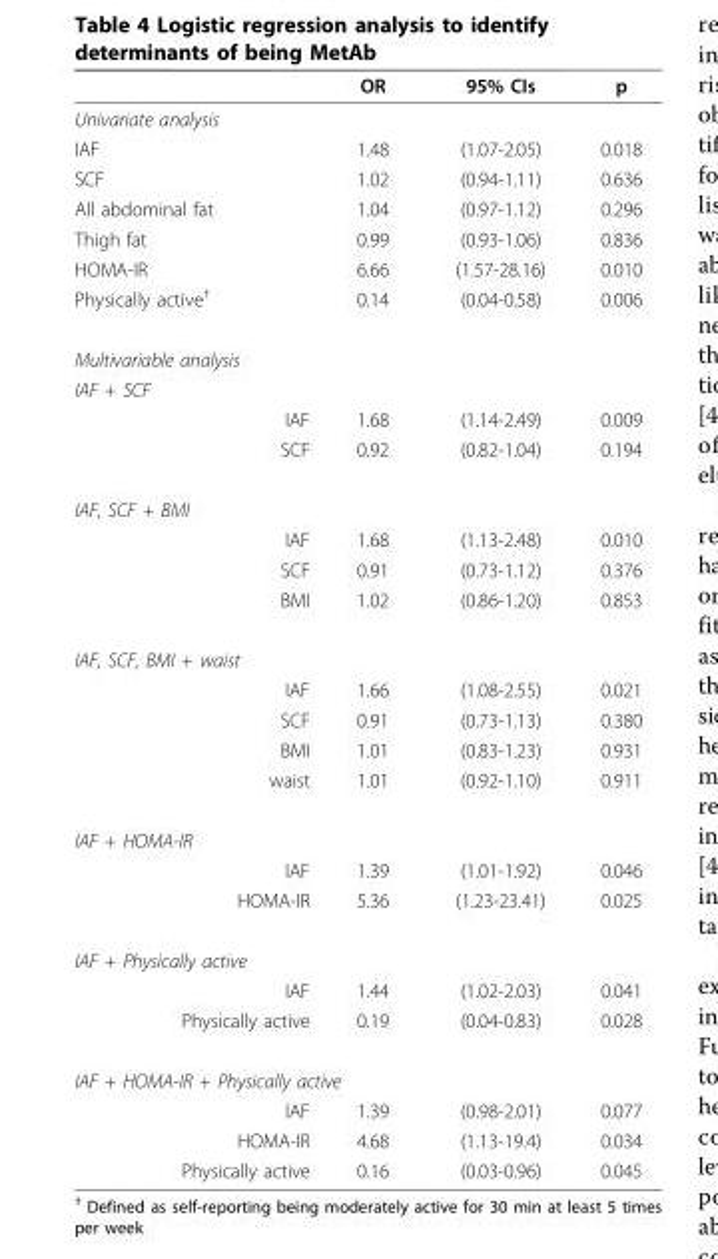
<table><thead><tr><td></td><td>OR</td><td>95% CIs</td><td>p</td></tr></thead><tbody><tr><td colspan="4">Univariate analysis</td></tr><tr><td>IAF</td><td>1.48</td><td>(1.07-2.05)</td><td>0.018</td></tr><tr><td>SCF</td><td>1.02</td><td>(0.94-1.11)</td><td>0.636</td></tr><tr><td>All abdominal fat</td><td>1.04</td><td>(0.97-1.12)</td><td>0.296</td></tr><tr><td>Thigh fat</td><td>0.99</td><td>(0.93-1.06)</td><td>0.836</td></tr><tr><td>HOMA-IR</td><td>6.66</td><td>(1.57-28.16)</td><td>0.010</td></tr><tr><td>Physically active<sup>†</sup></td><td>0.14</td><td>(0.04-0.58)</td><td>0.006</td></tr><tr><td colspan="4">Multivariable analysis</td></tr><tr><td colspan="4">IAF + SCF</td></tr><tr><td>IAF</td><td>1.68</td><td>(1.14-2.49)</td><td>0.009</td></tr><tr><td>SCF</td><td>0.92</td><td>(0.82-1.04)</td><td>0.194</td></tr><tr><td colspan="4">IAF, SCF + BMI</td></tr><tr><td>IAF</td><td>1.68</td><td>(1.13-2.48)</td><td>0.010</td></tr><tr><td>SCF</td><td>0.91</td><td>(0.73-1.12)</td><td>0.376</td></tr><tr><td>BMI</td><td>1.02</td><td>(0.86-1.20)</td><td>0.853</td></tr><tr><td colspan="4">IAF, SCF, BMI + waist</td></tr><tr><td>IAF</td><td>1.66</td><td>(1.08-2.55)</td><td>0.021</td></tr><tr><td>SCF</td><td>0.91</td><td>(0.73-1.13)</td><td>0.380</td></tr><tr><td>BMI</td><td>1.01</td><td>(0.83-1.23)</td><td>0.931</td></tr><tr><td>waist</td><td>1.01</td><td>(0.92-1.10)</td><td>0.911</td></tr><tr><td colspan="4">IAF + HOMA-IR</td></tr><tr><td>IAF</td><td>1.39</td><td>(1.01-1.92)</td><td>0.046</td></tr><tr><td>HOMA-IR</td><td>5.36</td><td>(1.23-23.41)</td><td>0.025</td></tr><tr><td colspan="4">IAF + Physically active</td></tr><tr><td>IAF</td><td>1.44</td><td>(1.02-2.03)</td><td>0.041</td></tr><tr><td>Physically active</td><td>0.19</td><td>(0.04-0.83)</td><td>0.028</td></tr><tr><td colspan="4">IAF + HOMA-IR + Physically active</td></tr><tr><td>IAF</td><td>1.39</td><td>(0.98-2.01)</td><td>0.077</td></tr><tr><td>HOMA-IR</td><td>4.68</td><td>(1.13-19.4)</td><td>0.034</td></tr><tr><td>Physically active</td><td>0.16</td><td>(0.03-0.96)</td><td>0.045</td></tr></tbody></table>